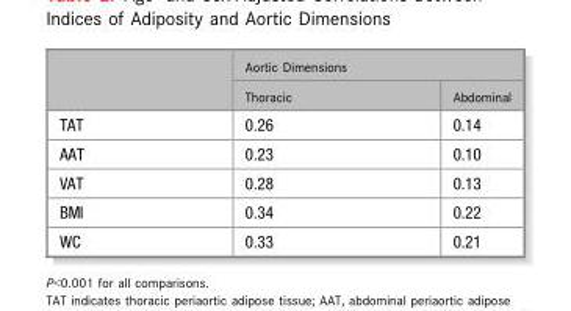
<table><thead><tr><td rowspan="2"></td><td colspan="2">Aortic Dimensions</td></tr><tr><td>Thoracic</td><td>Abdominal</td></tr></thead><tbody><tr><td>TAT</td><td>0.26</td><td>0.14</td></tr><tr><td>AAT</td><td>0.23</td><td>0.10</td></tr><tr><td>VAT</td><td>0.28</td><td>0.13</td></tr><tr><td>BMI</td><td>0.34</td><td>0.22</td></tr><tr><td>WC</td><td>0.33</td><td>0.21</td></tr></tbody></table>